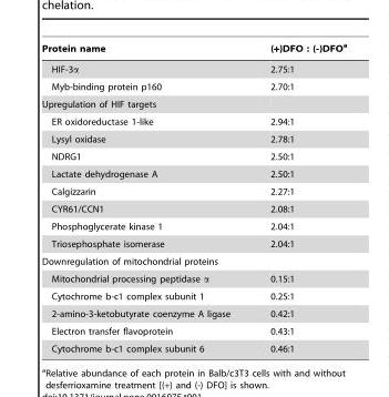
<table><thead><tr><td>Protein name</td><td>(+)DFO : (-)DFO<sup>a</sup></td></tr></thead><tbody><tr><td>HIF-3α</td><td>2.75:1</td></tr><tr><td>Myb-binding protein p160</td><td>2.70:1</td></tr><tr><td colspan="2">Upregulation of HIF targets</td></tr><tr><td>ER oxidoreductase 1-like</td><td>2.94:1</td></tr><tr><td>Lysyl oxidase</td><td>2.78:1</td></tr><tr><td>NDRG1</td><td>2.50:1</td></tr><tr><td>Lactate dehydrogenase A</td><td>2.50:1</td></tr><tr><td>Calgizzarin</td><td>2.27:1</td></tr><tr><td>CYR61/CCN1</td><td>2.08:1</td></tr><tr><td>Phosphoglycerate kinase 1</td><td>2.04:1</td></tr><tr><td>Triosephosphate isomerase</td><td>2.04:1</td></tr><tr><td colspan="2">Downregulation of mitochondrial proteins</td></tr><tr><td>Mitochondrial processing peptidase α</td><td>0.15:1</td></tr><tr><td>Cytochrome b-c1 complex subunit 1</td><td>0.25:1</td></tr><tr><td>2-amino-3-ketobutyrate coenzyme A ligase</td><td>0.42:1</td></tr><tr><td>Electron transfer flavoprotein</td><td>0.43:1</td></tr><tr><td>Cytochrome b-c1 complex subunit 6</td><td>0.46:1</td></tr></tbody></table>